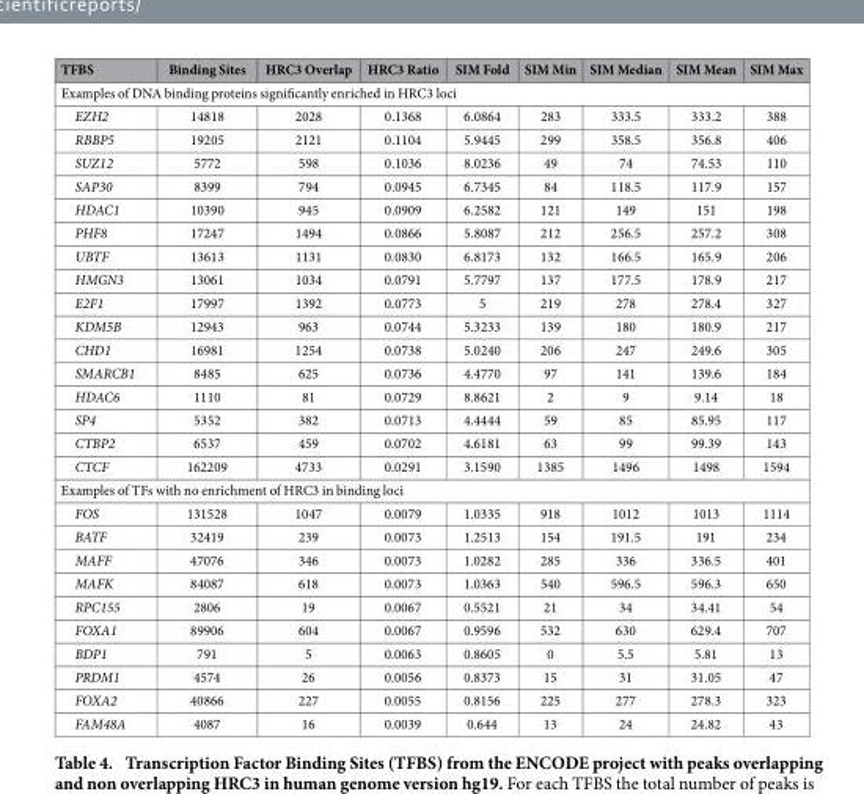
<table><thead><tr><td>TFBS</td><td>Binding Sites</td><td>HRC3 Overlap</td><td>HRC3 Ratio</td><td>SIM Fold</td><td>SIM Min</td><td>SIM Median</td><td>SIM Mean</td><td>SIM Max</td></tr></thead><tbody><tr><td colspan="9">Examples of DNA binding proteins significantly enriched in HRC3 loci</td></tr><tr><td>EZH2</td><td>14818</td><td>2028</td><td>0.1368</td><td>6.0864</td><td>283</td><td>333.5</td><td>333.2</td><td>388</td></tr><tr><td>RBBP5</td><td>19205</td><td>2121</td><td>0.1104</td><td>5.9445</td><td>299</td><td>358.5</td><td>356.8</td><td>406</td></tr><tr><td>SUZ12</td><td>5772</td><td>598</td><td>0.1036</td><td>8.0236</td><td>49</td><td>74</td><td>74.53</td><td>110</td></tr><tr><td>SAP30</td><td>8399</td><td>794</td><td>0.0945</td><td>6.7345</td><td>84</td><td>118.5</td><td>117.9</td><td>157</td></tr><tr><td>HDAC1</td><td>10390</td><td>945</td><td>0.0909</td><td>6.2582</td><td>121</td><td>149</td><td>151</td><td>198</td></tr><tr><td>PHF8</td><td>17247</td><td>1494</td><td>0.0866</td><td>5.8087</td><td>212</td><td>256.5</td><td>257.2</td><td>308</td></tr><tr><td>UBTF</td><td>13613</td><td>1131</td><td>0.0830</td><td>6.8173</td><td>132</td><td>166.5</td><td>165.9</td><td>206</td></tr><tr><td>HMGN3</td><td>13061</td><td>1034</td><td>0.0791</td><td>5.7797</td><td>137</td><td>177.5</td><td>178.9</td><td>217</td></tr><tr><td>E2F1</td><td>17997</td><td>1392</td><td>0.0773</td><td>5</td><td>219</td><td>278</td><td>278.4</td><td>327</td></tr><tr><td>KDM5B</td><td>12943</td><td>963</td><td>0.0744</td><td>5.3233</td><td>139</td><td>180</td><td>180.9</td><td>217</td></tr><tr><td>CHD1</td><td>16981</td><td>1254</td><td>0.0738</td><td>5.0240</td><td>206</td><td>247</td><td>249.6</td><td>305</td></tr><tr><td>SMARCB1</td><td>8485</td><td>625</td><td>0.0736</td><td>4.4770</td><td>97</td><td>141</td><td>139.6</td><td>184</td></tr><tr><td>HDAC6</td><td>1110</td><td>81</td><td>0.0729</td><td>8.8621</td><td>2</td><td>9</td><td>9.14</td><td>18</td></tr><tr><td>SP4</td><td>5352</td><td>382</td><td>0.0713</td><td>4.4444</td><td>59</td><td>85</td><td>85.95</td><td>117</td></tr><tr><td>CTBP2</td><td>6537</td><td>459</td><td>0.0702</td><td>4.6181</td><td>63</td><td>99</td><td>99.39</td><td>143</td></tr><tr><td>CTCF</td><td>162209</td><td>4733</td><td>0.0291</td><td>3.1590</td><td>1385</td><td>1496</td><td>1498</td><td>1594</td></tr><tr><td colspan="9">Examples of TFs with no enrichment of HRC3 in binding loci</td></tr><tr><td>FOS</td><td>131528</td><td>1047</td><td>0.0079</td><td>1.0335</td><td>918</td><td>1012</td><td>1013</td><td>1114</td></tr><tr><td>BATF</td><td>32419</td><td>239</td><td>0.0073</td><td>1.2513</td><td>154</td><td>191.5</td><td>191</td><td>234</td></tr><tr><td>MAFF</td><td>47076</td><td>346</td><td>0.0073</td><td>1.0282</td><td>285</td><td>336</td><td>336.5</td><td>401</td></tr><tr><td>MAFK</td><td>84087</td><td>618</td><td>0.0073</td><td>1.0363</td><td>540</td><td>596.5</td><td>596.3</td><td>650</td></tr><tr><td>RPC155</td><td>2806</td><td>19</td><td>0.0067</td><td>0.5521</td><td>21</td><td>34</td><td>34.41</td><td>54</td></tr><tr><td>FOXA1</td><td>89906</td><td>604</td><td>0.0067</td><td>0.9596</td><td>532</td><td>630</td><td>629.4</td><td>707</td></tr><tr><td>BDP1</td><td>791</td><td>5</td><td>0.0063</td><td>0.8605</td><td>0</td><td>5.5</td><td>5.81</td><td>13</td></tr><tr><td>PRDM1</td><td>4574</td><td>26</td><td>0.0056</td><td>0.8373</td><td>15</td><td>31</td><td>31.05</td><td>47</td></tr><tr><td>FOXA2</td><td>40866</td><td>227</td><td>0.0055</td><td>0.8156</td><td>225</td><td>277</td><td>278.3</td><td>323</td></tr><tr><td>FAM48A</td><td>4087</td><td>16</td><td>0.0039</td><td>0.644</td><td>13</td><td>24</td><td>24.82</td><td>43</td></tr></tbody></table>